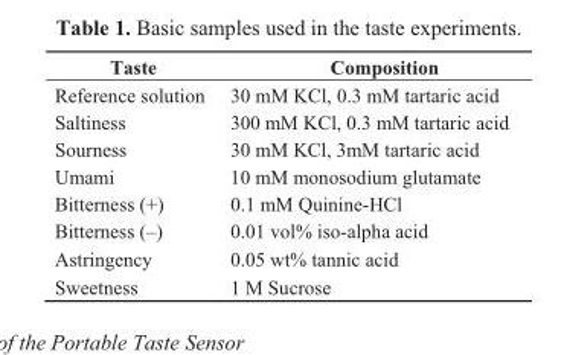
<table><thead><tr><td>Taste</td><td>Composition</td></tr></thead><tbody><tr><td>Reference solution</td><td>30 mM KCl, 0.3 mM tartaric acid</td></tr><tr><td>Saltiness</td><td>300 mM KCl, 0.3 mM tartaric acid</td></tr><tr><td>Sourness</td><td>30 mM KCl, 3mM tartaric acid</td></tr><tr><td>Umami</td><td>10 mM monosodium glutamate</td></tr><tr><td>Bitterness (+)</td><td>0.1 mM Quinine-HCl</td></tr><tr><td>Bitterness (–)</td><td>0.01 vol% iso-alpha acid</td></tr><tr><td>Astringency</td><td>0.05 wt% tannic acid</td></tr><tr><td>Sweetness</td><td>1 M Sucrose</td></tr></tbody></table>